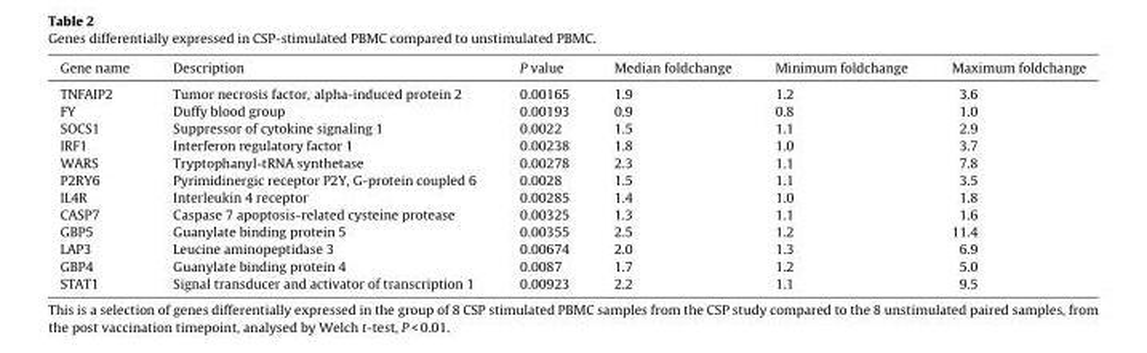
<table><thead><tr><td>Gene name</td><td>Description</td><td>P value</td><td>Median foldchange</td><td>Minimum foldchange</td><td>Maximum foldchange</td></tr></thead><tbody><tr><td>TNFAIP2</td><td>Tumor necrosis factor, alpha-induced protein 2</td><td>0.00165</td><td>1.9</td><td>1.2</td><td>3.6</td></tr><tr><td>FY</td><td>Duffy blood group</td><td>0.00193</td><td>0.9</td><td>0.8</td><td>1.0</td></tr><tr><td>SOCS1</td><td>Suppressor of cytokine signaling 1</td><td>0.0022</td><td>1.5</td><td>1.1</td><td>2.9</td></tr><tr><td>IRF1</td><td>Interferon regulatory factor 1</td><td>0.00238</td><td>1.8</td><td>1.0</td><td>3.7</td></tr><tr><td>WARS</td><td>Tryptophanyl-tRNA synthetase</td><td>0.00278</td><td>2.3</td><td>1.1</td><td>7.8</td></tr><tr><td>P2RY6</td><td>Pyrimidinergic receptor P2Y, G-protein coupled 6</td><td>0.0028</td><td>1.5</td><td>1.1</td><td>3.5</td></tr><tr><td>IL4R</td><td>Interleukin 4 receptor</td><td>0.00285</td><td>1.4</td><td>1.0</td><td>1.8</td></tr><tr><td>CASP7</td><td>Caspase 7 apoptosis-related cysteine protease</td><td>0.00325</td><td>1.3</td><td>1.1</td><td>1.6</td></tr><tr><td>GBP5</td><td>Guanylate binding protein 5</td><td>0.00355</td><td>2.5</td><td>1.2</td><td>11.4</td></tr><tr><td>LAP3</td><td>Leucine aminopeptidase 3</td><td>0.00674</td><td>2.0</td><td>1.3</td><td>6.9</td></tr><tr><td>GBP4</td><td>Guanylate binding protein 4</td><td>0.0087</td><td>1.7</td><td>1.2</td><td>5.0</td></tr><tr><td>STAT1</td><td>Signal transducer and activator of transcription 1</td><td>0.00923</td><td>2.2</td><td>1.1</td><td>9.5</td></tr></tbody></table>